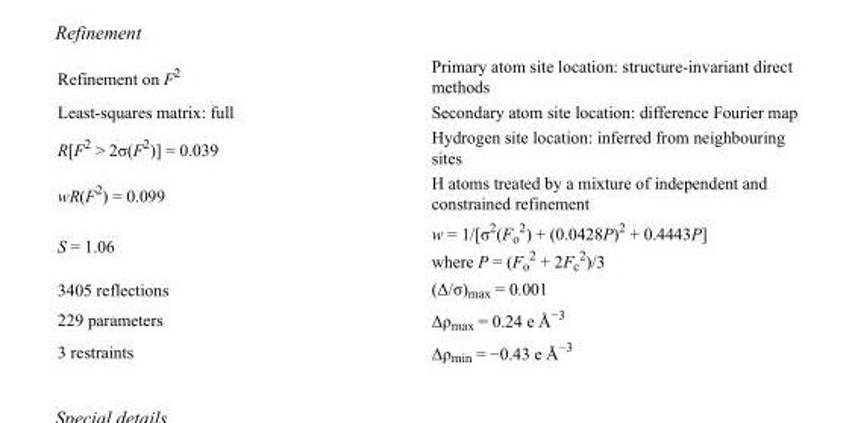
<table><tbody><tr><td>Refinement on F<sup>2</sup></td><td>Primary atom site location: structure-invariant direct methods</td></tr><tr><td>Least-squares matrix: full</td><td>Secondary atom site location: difference Fourier map</td></tr><tr><td>R[F<sup>2</sup> &gt; 2σ(F<sup>2</sup>)] = 0.039</td><td>Hydrogen site location: inferred from neighbouring sites</td></tr><tr><td>wR(F<sup>2</sup>) = 0.099</td><td>H atoms treated by a mixture of independent and constrained refinement</td></tr><tr><td>S = 1.06</td><td>w = 1/[σ<sup>2</sup>(F<sub>o</sub> <sup>2</sup>) + (0.0428P)<sup>2</sup> + 0.4443P] where P = (F<sub>o</sub> <sup>2</sup> + 2F<sub>c</sub> <sup>2</sup>)/3</td></tr><tr><td>3405 reflections</td><td>(Δ/σ)<sub>max</sub> = 0.001</td></tr><tr><td>229 parameters</td><td>Δρ<sub>max</sub> = 0.24 e Å<sup>−3</sup></td></tr><tr><td>3 restraints</td><td>Δρ<sub>min</sub> = −0.43 e Å<sup>−3</sup></td></tr></tbody></table>